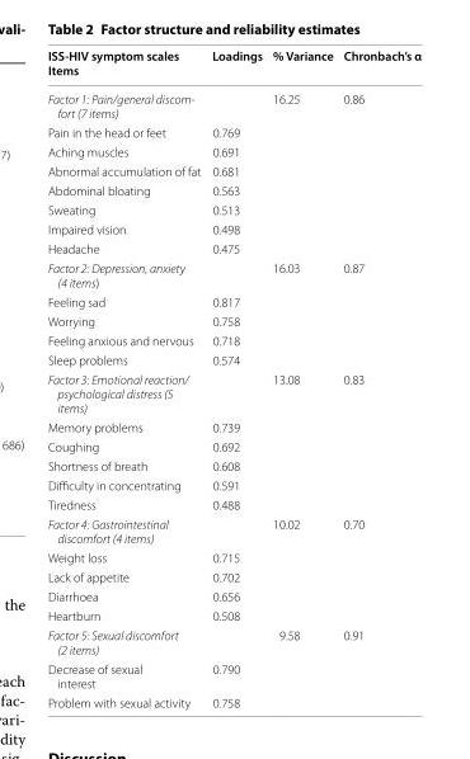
<table><thead><tr><td>ISS‑HIV symptom scales Items</td><td>Loadings</td><td>% Variance</td><td>Chronbach’s α</td></tr></thead><tbody><tr><td>Factor 1: Pain/general discom- fort (7 items)</td><td></td><td>16.25</td><td>0.86</td></tr><tr><td>Pain in the head or feet</td><td>0.769</td><td></td><td></td></tr><tr><td>Aching muscles</td><td>0.691</td><td></td><td></td></tr><tr><td>Abnormal accumulation of fat</td><td>0.681</td><td></td><td></td></tr><tr><td>Abdominal bloating</td><td>0.563</td><td></td><td></td></tr><tr><td>Sweating</td><td>0.513</td><td></td><td></td></tr><tr><td>Impaired vision</td><td>0.498</td><td></td><td></td></tr><tr><td>Headache</td><td>0.475</td><td></td><td></td></tr><tr><td>Factor 2: Depression, anxiety (4 items)</td><td></td><td>16.03</td><td>0.87</td></tr><tr><td>Feeling sad</td><td>0.817</td><td></td><td></td></tr><tr><td>Worrying</td><td>0.758</td><td></td><td></td></tr><tr><td>Feeling anxious and nervous</td><td>0.718</td><td></td><td></td></tr><tr><td>Sleep problems</td><td>0.574</td><td></td><td></td></tr><tr><td>Factor 3: Emotional reaction/ psychological distress (5 items)</td><td></td><td>13.08</td><td>0.83</td></tr><tr><td>Memory problems</td><td>0.739</td><td></td><td></td></tr><tr><td>Coughing</td><td>0.692</td><td></td><td></td></tr><tr><td>Shortness of breath</td><td>0.608</td><td></td><td></td></tr><tr><td>Difficulty in concentrating</td><td>0.591</td><td></td><td></td></tr><tr><td>Tiredness</td><td>0.488</td><td></td><td></td></tr><tr><td>Factor 4: Gastrointestinal discomfort (4 items)</td><td></td><td>10.02</td><td>0.70</td></tr><tr><td>Weight loss</td><td>0.715</td><td></td><td></td></tr><tr><td>Lack of appetite</td><td>0.702</td><td></td><td></td></tr><tr><td>Diarrhoea</td><td>0.656</td><td></td><td></td></tr><tr><td>Heartburn</td><td>0.508</td><td></td><td></td></tr><tr><td>Factor 5: Sexual discomfort (2 items)</td><td></td><td>9.58</td><td>0.91</td></tr><tr><td>Decrease of sexual interest</td><td>0.790</td><td></td><td></td></tr><tr><td>Problem with sexual activity</td><td>0.758</td><td></td><td></td></tr></tbody></table>